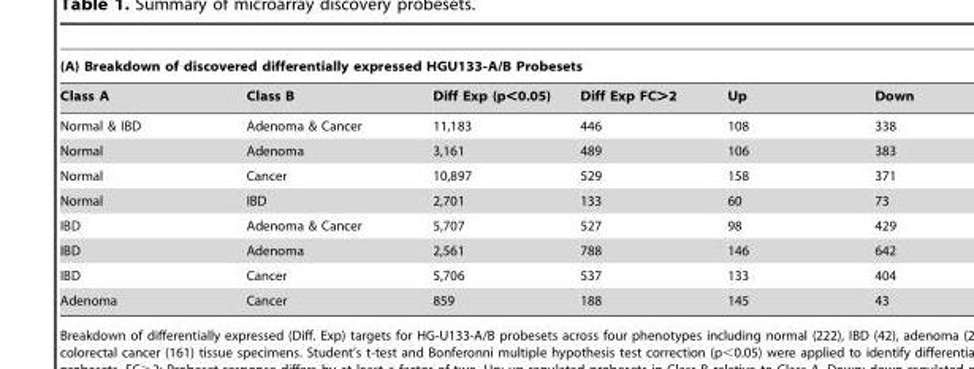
<table><thead><tr><td colspan="6">(A) Breakdown of discovered differentially expressed HGU133-A/B Probesets</td></tr><tr><td>Class A</td><td>Class B</td><td>Diff Exp (p&lt;0.05)</td><td>Diff Exp FC&gt;2</td><td>Up</td><td>Down</td></tr></thead><tbody><tr><td>Normal &amp; IBD</td><td>Adenoma &amp; Cancer</td><td>11,183</td><td>446</td><td>108</td><td>338</td></tr><tr><td>Normal</td><td>Adenoma</td><td>3,161</td><td>489</td><td>106</td><td>383</td></tr><tr><td>Normal</td><td>Cancer</td><td>10,897</td><td>529</td><td>158</td><td>371</td></tr><tr><td>Normal</td><td>IBD</td><td>2,701</td><td>133</td><td>60</td><td>73</td></tr><tr><td>IBD</td><td>Adenoma &amp; Cancer</td><td>5,707</td><td>527</td><td>98</td><td>429</td></tr><tr><td>IBD</td><td>Adenoma</td><td>2,561</td><td>788</td><td>146</td><td>642</td></tr><tr><td>IBD</td><td>Cancer</td><td>5,706</td><td>537</td><td>133</td><td>404</td></tr><tr><td>Adenoma</td><td>Cancer</td><td>859</td><td>188</td><td>145</td><td>43</td></tr></tbody></table>